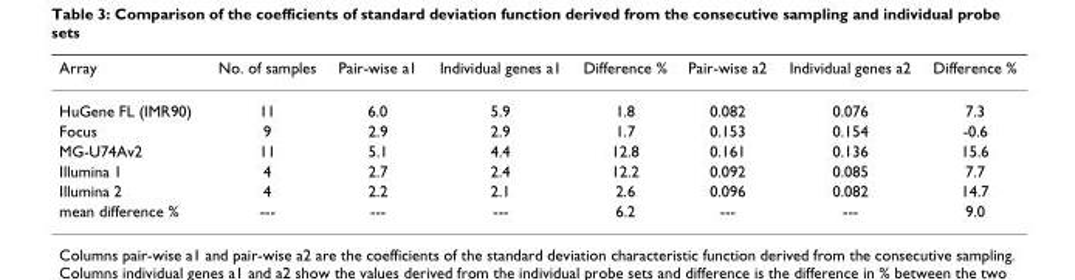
<table><thead><tr><td>Array</td><td>No. of samples</td><td>Pair-wise a1</td><td>Individual genes a1</td><td>Difference %</td><td>Pair-wise a2</td><td>Individual genes a2</td><td>Difference %</td></tr></thead><tbody><tr><td>HuGene FL (IMR90)</td><td>11</td><td>6.0</td><td>5.9</td><td>1.8</td><td>0.082</td><td>0.076</td><td>7.3</td></tr><tr><td>Focus</td><td>9</td><td>2.9</td><td>2.9</td><td>1.7</td><td>0.153</td><td>0.154</td><td>-0.6</td></tr><tr><td>MG-U74Av2</td><td>11</td><td>5.1</td><td>4.4</td><td>12.8</td><td>0.161</td><td>0.136</td><td>15.6</td></tr><tr><td>Illumina 1</td><td>4</td><td>2.7</td><td>2.4</td><td>12.2</td><td>0.092</td><td>0.085</td><td>7.7</td></tr><tr><td>Illumina 2</td><td>4</td><td>2.2</td><td>2.1</td><td>2.6</td><td>0.096</td><td>0.082</td><td>14.7</td></tr><tr><td>mean difference %</td><td>---</td><td>---</td><td>---</td><td>6.2</td><td>---</td><td>---</td><td>9.0</td></tr></tbody></table>